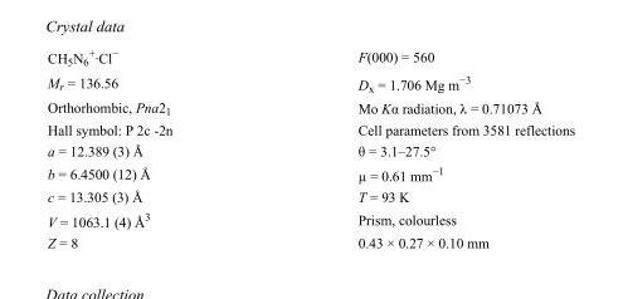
<table><tbody><tr><td>CH<sub>5</sub>N<sub>6</sub> <sup>+</sup>·Cl<sup>−</sup></td><td>F(000) = 560</td></tr><tr><td>M<sub>r</sub> = 136.56</td><td>D<sub>x</sub> = 1.706 Mg m<sup>−3</sup></td></tr><tr><td>Orthorhombic, Pna2<sub>1</sub></td><td>Mo Kα radiation, λ = 0.71073 Å</td></tr><tr><td>Hall symbol: P 2c -2n</td><td>Cell parameters from 3581 reflections</td></tr><tr><td>a = 12.389 (3) Å</td><td>θ = 3.1–27.5°</td></tr><tr><td>b = 6.4500 (12) Å</td><td>µ = 0.61 mm<sup>−1</sup></td></tr><tr><td>c = 13.305 (3) Å</td><td>T = 93 K</td></tr><tr><td>V = 1063.1 (4) Å<sup>3</sup></td><td>Prism, colourless</td></tr><tr><td>Z = 8</td><td>0.43 × 0.27 × 0.10 mm</td></tr></tbody></table>